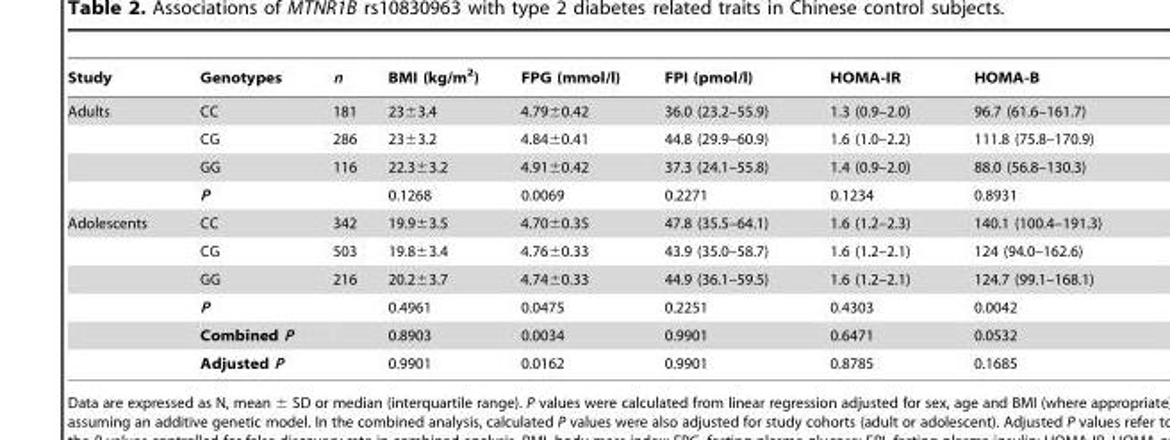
<table><thead><tr><td>Study</td><td>Genotypes</td><td>n</td><td>BMI (kg/m<sup>2</sup>)</td><td>FPG (mmol/l)</td><td>FPI (pmol/l)</td><td>HOMA-IR</td><td>HOMA-B</td></tr></thead><tbody><tr><td rowspan="4">Adults</td><td>CC</td><td>181</td><td>23±3.4</td><td>4.79±0.42</td><td>36.0 (23.2–55.9)</td><td>1.3 (0.9–2.0)</td><td>96.7 (61.6–161.7)</td></tr><tr><td>CG</td><td>286</td><td>23±3.2</td><td>4.84±0.41</td><td>44.8 (29.9–60.9)</td><td>1.6 (1.0–2.2)</td><td>111.8 (75.8–170.9)</td></tr><tr><td>GG</td><td>116</td><td>22.3±3.2</td><td>4.91±0.42</td><td>37.3 (24.1–55.8)</td><td>1.4 (0.9–2.0)</td><td>88.0 (56.8–130.3)</td></tr><tr><td>P</td><td></td><td>0.1268</td><td>0.0069</td><td>0.2271</td><td>0.1234</td><td>0.8931</td></tr><tr><td rowspan="6">Adolescents</td><td>CC</td><td>342</td><td>19.9±3.5</td><td>4.70±0.35</td><td>47.8 (35.5–64.1)</td><td>1.6 (1.2–2.3)</td><td>140.1 (100.4–191.3)</td></tr><tr><td>CG</td><td>503</td><td>19.8±3.4</td><td>4.76±0.33</td><td>43.9 (35.0–58.7)</td><td>1.6 (1.2–2.1)</td><td>124 (94.0–162.6)</td></tr><tr><td>GG</td><td>216</td><td>20.2±3.7</td><td>4.74±0.33</td><td>44.9 (36.1–59.5)</td><td>1.6 (1.2–2.1)</td><td>124.7 (99.1–168.1)</td></tr><tr><td>P</td><td></td><td>0.4961</td><td>0.0475</td><td>0.2251</td><td>0.4303</td><td>0.0042</td></tr><tr><td>Combined P</td><td></td><td>0.8903</td><td>0.0034</td><td>0.9901</td><td>0.6471</td><td>0.0532</td></tr><tr><td>Adjusted P</td><td></td><td>0.9901</td><td>0.0162</td><td>0.9901</td><td>0.8785</td><td>0.1685</td></tr></tbody></table>